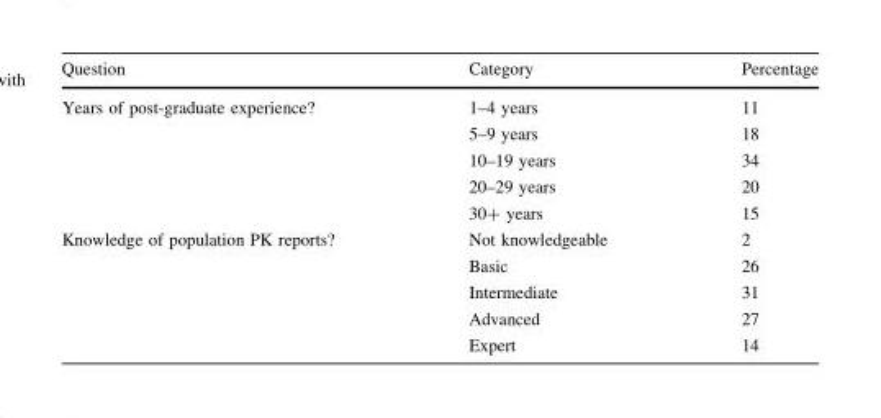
<table><thead><tr><td>Question</td><td>Category</td><td>Percentage</td></tr></thead><tbody><tr><td rowspan="5">Years of post-graduate experience?</td><td>1–4 years</td><td>11</td></tr><tr><td>5–9 years</td><td>18</td></tr><tr><td>10–19 years</td><td>34</td></tr><tr><td>20–29 years</td><td>20</td></tr><tr><td>30+ years</td><td>15</td></tr><tr><td rowspan="5">Knowledge of population PK reports?</td><td>Not knowledgeable</td><td>2</td></tr><tr><td>Basic</td><td>26</td></tr><tr><td>Intermediate</td><td>31</td></tr><tr><td>Advanced</td><td>27</td></tr><tr><td>Expert</td><td>14</td></tr></tbody></table>